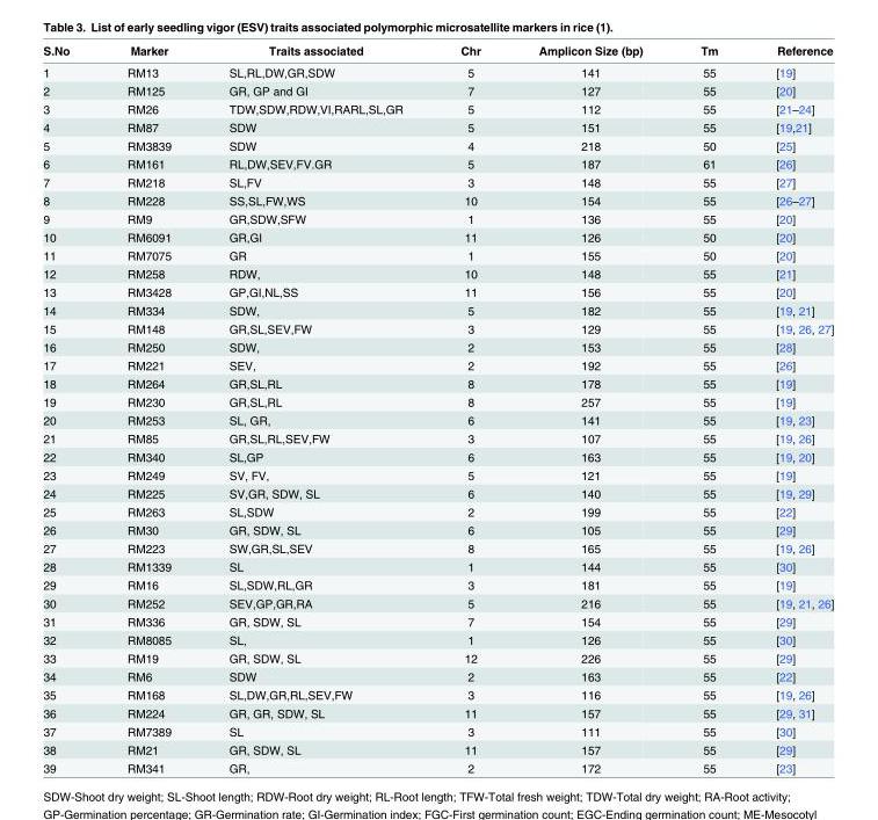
<table><thead><tr><td>S.No</td><td>Marker</td><td>Traits associated</td><td>Chr</td><td>Amplicon Size (bp)</td><td>Tm</td><td>Reference</td></tr></thead><tbody><tr><td>1</td><td>RM13</td><td>SL,RL,DW,GR,SDW</td><td>5</td><td>141</td><td>55</td><td>[19]</td></tr><tr><td>2</td><td>RM125</td><td>GR, GP and GI</td><td>7</td><td>127</td><td>55</td><td>[20]</td></tr><tr><td>3</td><td>RM26</td><td>TDW,SDW,RDW,VI,RARL,SL,GR</td><td>5</td><td>112</td><td>55</td><td>[21–24]</td></tr><tr><td>4</td><td>RM87</td><td>SDW</td><td>5</td><td>151</td><td>55</td><td>[19,21]</td></tr><tr><td>5</td><td>RM3839</td><td>SDW</td><td>4</td><td>218</td><td>50</td><td>[25]</td></tr><tr><td>6</td><td>RM161</td><td>RL,DW,SEV,FV.GR</td><td>5</td><td>187</td><td>61</td><td>[26]</td></tr><tr><td>7</td><td>RM218</td><td>SL,FV</td><td>3</td><td>148</td><td>55</td><td>[27]</td></tr><tr><td>8</td><td>RM228</td><td>SS,SL,FW,WS</td><td>10</td><td>154</td><td>55</td><td>[26–27]</td></tr><tr><td>9</td><td>RM9</td><td>GR,SDW,SFW</td><td>1</td><td>136</td><td>55</td><td>[20]</td></tr><tr><td>10</td><td>RM6091</td><td>GR,GI</td><td>11</td><td>126</td><td>50</td><td>[20]</td></tr><tr><td>11</td><td>RM7075</td><td>GR</td><td>1</td><td>155</td><td>50</td><td>[20]</td></tr><tr><td>12</td><td>RM258</td><td>RDW,</td><td>10</td><td>148</td><td>55</td><td>[21]</td></tr><tr><td>13</td><td>RM3428</td><td>GP,GI,NL,SS</td><td>11</td><td>156</td><td>55</td><td>[20]</td></tr><tr><td>14</td><td>RM334</td><td>SDW,</td><td>5</td><td>182</td><td>55</td><td>[19, 21]</td></tr><tr><td>15</td><td>RM148</td><td>GR,SL,SEV,FW</td><td>3</td><td>129</td><td>55</td><td>[19, 26, 27]</td></tr><tr><td>16</td><td>RM250</td><td>SDW,</td><td>2</td><td>153</td><td>55</td><td>[28]</td></tr><tr><td>17</td><td>RM221</td><td>SEV,</td><td>2</td><td>192</td><td>55</td><td>[26]</td></tr><tr><td>18</td><td>RM264</td><td>GR,SL,RL</td><td>8</td><td>178</td><td>55</td><td>[19]</td></tr><tr><td>19</td><td>RM230</td><td>GR,SL,RL</td><td>8</td><td>257</td><td>55</td><td>[19]</td></tr><tr><td>20</td><td>RM253</td><td>SL, GR,</td><td>6</td><td>141</td><td>55</td><td>[19, 23]</td></tr><tr><td>21</td><td>RM85</td><td>GR,SL,RL,SEV,FW</td><td>3</td><td>107</td><td>55</td><td>[19, 26]</td></tr><tr><td>22</td><td>RM340</td><td>SL,GP</td><td>6</td><td>163</td><td>55</td><td>[19, 20]</td></tr><tr><td>23</td><td>RM249</td><td>SV, FV,</td><td>5</td><td>121</td><td>55</td><td>[19]</td></tr><tr><td>24</td><td>RM225</td><td>SV,GR, SDW, SL</td><td>6</td><td>140</td><td>55</td><td>[19, 29]</td></tr><tr><td>25</td><td>RM263</td><td>SL,SDW</td><td>2</td><td>199</td><td>55</td><td>[22]</td></tr><tr><td>26</td><td>RM30</td><td>GR, SDW, SL</td><td>6</td><td>105</td><td>55</td><td>[29]</td></tr><tr><td>27</td><td>RM223</td><td>SW,GR,SL,SEV</td><td>8</td><td>165</td><td>55</td><td>[19, 26]</td></tr><tr><td>28</td><td>RM1339</td><td>SL</td><td>1</td><td>144</td><td>55</td><td>[30]</td></tr><tr><td>29</td><td>RM16</td><td>SL,SDW,RL,GR</td><td>3</td><td>181</td><td>55</td><td>[19]</td></tr><tr><td>30</td><td>RM252</td><td>SEV,GP,GR,RA</td><td>5</td><td>216</td><td>55</td><td>[19, 21, 26]</td></tr><tr><td>31</td><td>RM336</td><td>GR, SDW, SL</td><td>7</td><td>154</td><td>55</td><td>[29]</td></tr><tr><td>32</td><td>RM8085</td><td>SL,</td><td>1</td><td>126</td><td>55</td><td>[30]</td></tr><tr><td>33</td><td>RM19</td><td>GR, SDW, SL</td><td>12</td><td>226</td><td>55</td><td>[29]</td></tr><tr><td>34</td><td>RM6</td><td>SDW</td><td>2</td><td>163</td><td>55</td><td>[22]</td></tr><tr><td>35</td><td>RM168</td><td>SL,DW,GR,RL,SEV,FW</td><td>3</td><td>116</td><td>55</td><td>[19, 26]</td></tr><tr><td>36</td><td>RM224</td><td>GR, GR, SDW, SL</td><td>11</td><td>157</td><td>55</td><td>[29, 31]</td></tr><tr><td>37</td><td>RM7389</td><td>SL</td><td>3</td><td>111</td><td>55</td><td>[30]</td></tr><tr><td>38</td><td>RM21</td><td>GR, SDW, SL</td><td>11</td><td>157</td><td>55</td><td>[29]</td></tr><tr><td>39</td><td>RM341</td><td>GR,</td><td>2</td><td>172</td><td>55</td><td>[23]</td></tr></tbody></table>